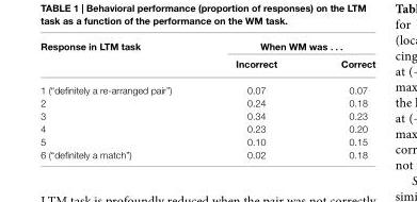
<table><thead><tr><td rowspan="2">Response in LTM task</td><td colspan="2">When WM was . . .</td></tr><tr><td>Incorrect</td><td>Correct</td></tr></thead><tbody><tr><td>1 (“definitely a re-arranged pair”)</td><td>0.07</td><td>0.07</td></tr><tr><td>2</td><td>0.24</td><td>0.18</td></tr><tr><td>3</td><td>0.34</td><td>0.23</td></tr><tr><td>4</td><td>0.23</td><td>0.20</td></tr><tr><td>5</td><td>0.10</td><td>0.15</td></tr><tr><td>6 (“definitely a match”)</td><td>0.02</td><td>0.18</td></tr></tbody></table>